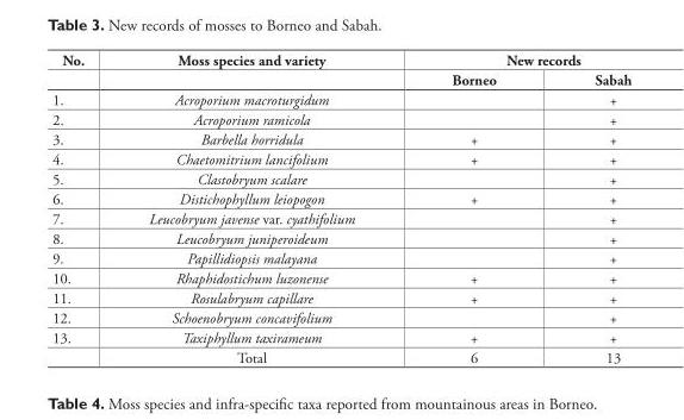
<table><thead><tr><td rowspan="2">No.</td><td rowspan="2">Moss species and variety</td><td colspan="2">New records</td></tr><tr><td>Borneo</td><td>Sabah</td></tr></thead><tbody><tr><td>1.</td><td>Acroporium macroturgidum</td><td></td><td>+</td></tr><tr><td>2.</td><td>Acroporium ramicola</td><td></td><td>+</td></tr><tr><td>3.</td><td>Barbella horridula</td><td>+</td><td>+</td></tr><tr><td>4.</td><td>Chaetomitrium lancifolium</td><td>+</td><td>+</td></tr><tr><td>5.</td><td>Clastobryum scalare</td><td></td><td>+</td></tr><tr><td>6.</td><td>Distichophyllum leiopogon</td><td>+</td><td>+</td></tr><tr><td>7.</td><td>Leucobryum javense var. cyathifolium</td><td></td><td>+</td></tr><tr><td>8.</td><td>Leucobryum juniperoideum</td><td></td><td>+</td></tr><tr><td>9.</td><td>Papillidiopsis malayana</td><td></td><td>+</td></tr><tr><td>10.</td><td>Rhaphidostichum luzonense</td><td>+</td><td>+</td></tr><tr><td>11.</td><td>Rosulabryum capillare</td><td>+</td><td>+</td></tr><tr><td>12.</td><td>Schoenobryum concavifolium</td><td></td><td>+</td></tr><tr><td rowspan="2">13.</td><td>Taxiphyllum taxirameum</td><td>+</td><td>+</td></tr><tr><td>Total</td><td>6</td><td>13</td></tr></tbody></table>